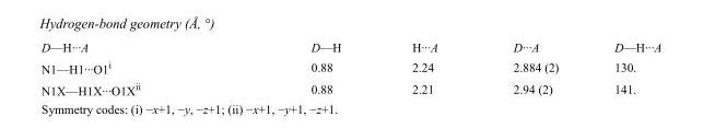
<table><tbody><tr><td>D—H···A</td><td>D—H</td><td>H···A</td><td>D···A</td><td>D—H···A</td></tr><tr><td>N1—H1···O1<sup>i</sup></td><td>0.88</td><td>2.24</td><td>2.884 (2)</td><td>130.</td></tr><tr><td>N1X—H1X···O1X<sup>ii</sup></td><td>0.88</td><td>2.21</td><td>2.94 (2)</td><td>141.</td></tr></tbody></table>